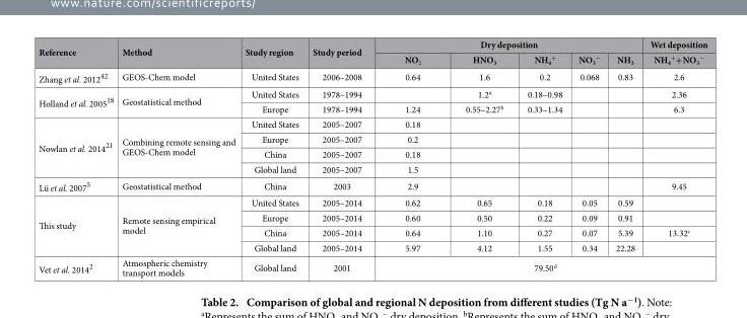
<table><tbody><tr><td rowspan="2">Reference</td><td rowspan="2">Method</td><td rowspan="2">Study region</td><td rowspan="2">Study period</td><td colspan="5">Dry deposition</td><td>Wet deposition</td></tr><tr><td>NO<sub>2</sub></td><td>HNO<sub>3</sub></td><td>NH<sub>4</sub> <sup>+</sup></td><td>NO<sub>3</sub> <sup>−</sup></td><td>NH<sub>3</sub></td><td>NH<sub>4</sub> <sup>+</sup>+ NO<sub>3</sub> <sup>−</sup></td></tr><tr><td>Zhang et al. 2012<sup>42</sup></td><td>GEOS-Chem model</td><td>United States</td><td>2006–2008</td><td>0.64</td><td>1.6</td><td>0.2</td><td>0.068</td><td>0.83</td><td>2.6</td></tr><tr><td rowspan="2">Holland et al. 2005<sup>18</sup></td><td rowspan="2">Geostatistical method</td><td>United States</td><td>1978–1994</td><td></td><td>1.2<sup>a</sup></td><td>0.18–0.98</td><td></td><td></td><td>2.36</td></tr><tr><td>Europe</td><td>1978–1994</td><td>1.24</td><td>0.55–2.27<sup>b</sup></td><td>0.33–1.34</td><td></td><td></td><td>6.3</td></tr><tr><td rowspan="4">Nowlan et al. 2014<sup>21</sup></td><td rowspan="4">Combining remote sensing and GEOS-Chem model</td><td>United States</td><td>2005–2007</td><td>0.18</td><td></td><td></td><td></td><td></td><td></td></tr><tr><td>Europe</td><td>2005–2007</td><td>0.2</td><td></td><td></td><td></td><td></td><td></td></tr><tr><td>China</td><td>2005–2007</td><td>0.18</td><td></td><td></td><td></td><td></td><td></td></tr><tr><td>Global land</td><td>2005–2007</td><td>1.5</td><td></td><td></td><td></td><td></td><td></td></tr><tr><td>Lü et al. 2007<sup>5</sup></td><td>Geostatistical method</td><td>China</td><td>2003</td><td>2.9</td><td></td><td></td><td></td><td></td><td>9.45</td></tr><tr><td rowspan="4">This study</td><td rowspan="4">Remote sensing empirical model</td><td>United States</td><td>2005–2014</td><td>0.62</td><td>0.65</td><td>0.18</td><td>0.05</td><td>0.59</td><td></td></tr><tr><td>Europe</td><td>2005–2014</td><td>0.60</td><td>0.50</td><td>0.22</td><td>0.09</td><td>0.91</td><td></td></tr><tr><td>China</td><td>2005–2014</td><td>0.64</td><td>1.10</td><td>0.27</td><td>0.07</td><td>5.39</td><td>13.32<sup>c</sup></td></tr><tr><td>Global land</td><td>2005–2014</td><td>5.97</td><td>4.12</td><td>1.55</td><td>0.34</td><td>22.28</td><td></td></tr><tr><td>Vet et al. 2014<sup>2</sup></td><td>Atmospheric chemistry transport models</td><td>Global land</td><td>2001</td><td colspan="6">79.50<sup>d</sup></td></tr></tbody></table>